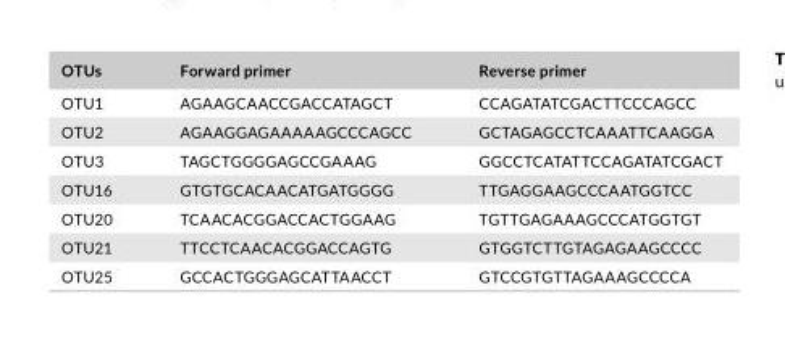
<table><thead><tr><td>OTUs</td><td>Forward primer</td><td>Reverse primer</td></tr></thead><tbody><tr><td>OTU1</td><td>AGAAGCAACCGACCATAGCT</td><td>CCAGATATCGACTTCCCAGCC</td></tr><tr><td>OTU2</td><td>AGAAGGAGAAAAAGCCCAGCC</td><td>GCTAGAGCCTCAAATTCAAGGA</td></tr><tr><td>OTU3</td><td>TAGCTGGGGAGCCGAAAG</td><td>GGCCTCATATTCCAGATATCGACT</td></tr><tr><td>OTU16</td><td>GTGTGCACAACATGATGGGG</td><td>TTGAGGAAGCCCAATGGTCC</td></tr><tr><td>OTU20</td><td>TCAACACGGACCACTGGAAG</td><td>TGTTGAGAAAGCCCATGGTGT</td></tr><tr><td>OTU21</td><td>TTCCTCAACACGGACCAGTG</td><td>GTGGTCTTGTAGAGAAGCCCC</td></tr><tr><td>OTU25</td><td>GCCACTGGGAGCATTAACCT</td><td>GTCCGTGTTAGAAAGCCCCA</td></tr></tbody></table>